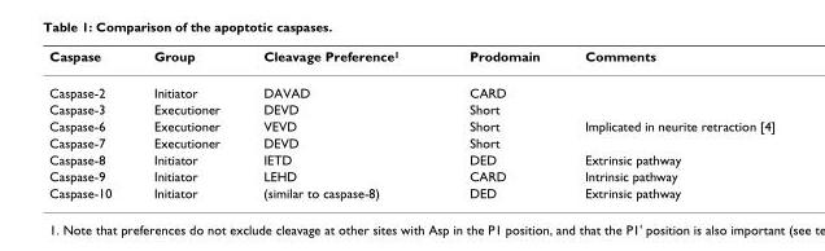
<table><thead><tr><td>Caspase</td><td>Group</td><td>Cleavage Preference<sup>1</sup></td><td>Prodomain</td><td>Comments</td></tr></thead><tbody><tr><td>Caspase-2</td><td>Initiator</td><td>DAVAD</td><td>CARD</td><td></td></tr><tr><td>Caspase-3</td><td>Executioner</td><td>DEVD</td><td>Short</td><td></td></tr><tr><td>Caspase-6</td><td>Executioner</td><td>VEVD</td><td>Short</td><td>Implicated in neurite retraction [4]</td></tr><tr><td>Caspase-7</td><td>Executioner</td><td>DEVD</td><td>Short</td><td></td></tr><tr><td>Caspase-8</td><td>Initiator</td><td>IETD</td><td>DED</td><td>Extrinsic pathway</td></tr><tr><td>Caspase-9</td><td>Initiator</td><td>LEHD</td><td>CARD</td><td>Intrinsic pathway</td></tr><tr><td>Caspase-10</td><td>Initiator</td><td>(similar to caspase-8)</td><td>DED</td><td>Extrinsic pathway</td></tr></tbody></table>